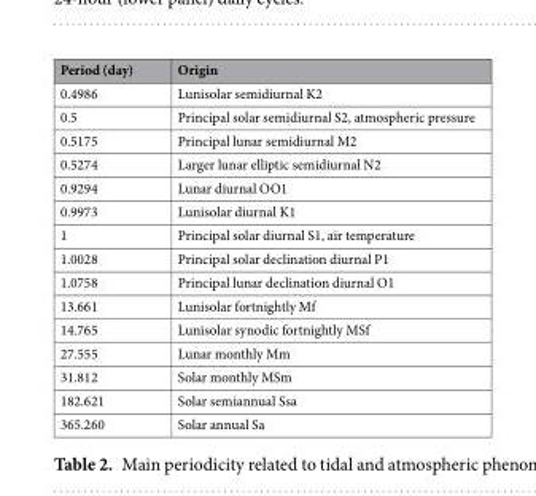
<table><thead><tr><td>Period (day)</td><td>Origin</td></tr></thead><tbody><tr><td>0.4986</td><td>Lunisolar semidiurnal K2</td></tr><tr><td>0.5</td><td>Principal solar semidiurnal S2, atmospheric pressure</td></tr><tr><td>0.5175</td><td>Principal lunar semidiurnal M2</td></tr><tr><td>0.5274</td><td>Larger lunar elliptic semidiurnal N2</td></tr><tr><td>0.9294</td><td>Lunar diurnal OO1</td></tr><tr><td>0.9973</td><td>Lunisolar diurnal K1</td></tr><tr><td>1</td><td>Principal solar diurnal S1, air temperature</td></tr><tr><td>1.0028</td><td>Principal solar declination diurnal P1</td></tr><tr><td>1.0758</td><td>Principal lunar declination diurnal O1</td></tr><tr><td>13.661</td><td>Lunisolar fortnightly Mf</td></tr><tr><td>14.765</td><td>Lunisolar synodic fortnightly MSf</td></tr><tr><td>27.555</td><td>Lunar monthly Mm</td></tr><tr><td>31.812</td><td>Solar monthly MSm</td></tr><tr><td>182.621</td><td>Solar semiannual Ssa</td></tr><tr><td>365.260</td><td>Solar annual Sa</td></tr></tbody></table>